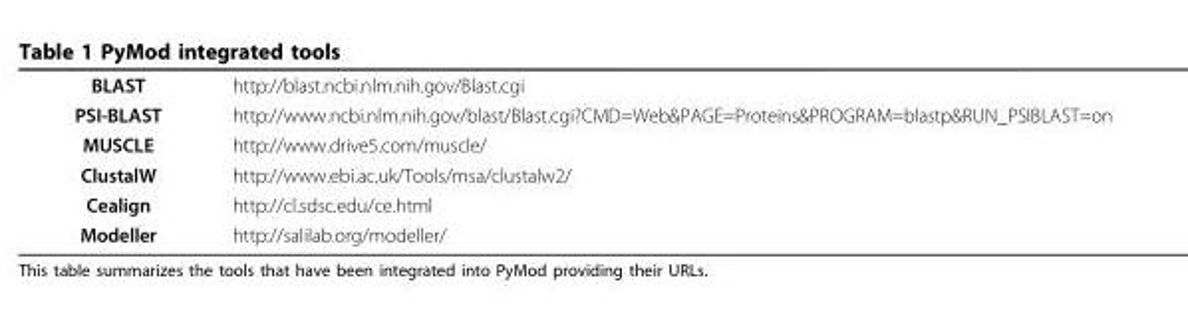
<table><tbody><tr><td>BLAST</td><td>http://blast.ncbi.nlm.nih.gov/Blast.cgi</td></tr><tr><td>PSI-BLAST</td><td>http://www.ncbi.nlm.nih.gov/blast/Blast.cgi?CMD=Web&amp;PAGE=Proteins&amp;PROGRAM=blastp&amp;RUN_PSIBLAST=on</td></tr><tr><td>MUSCLE</td><td>http://www.drive5.com/muscle/</td></tr><tr><td>ClustalW</td><td>http://www.ebi.ac.uk/Tools/msa/clustalw2/</td></tr><tr><td>Cealign</td><td>http://cl.sdsc.edu/ce.html</td></tr><tr><td>Modeller</td><td>http://salilab.org/modeller/</td></tr></tbody></table>